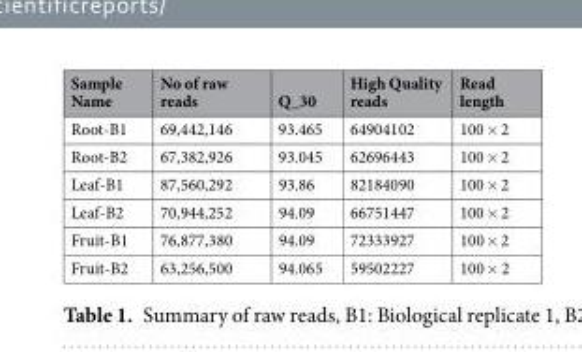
<table><thead><tr><td>Sample Name</td><td>No of raw reads</td><td>Q_30</td><td>High Quality reads</td><td>Read length</td></tr></thead><tbody><tr><td>Root-B1</td><td>69,442,146</td><td>93.465</td><td>64904102</td><td>100 × 2</td></tr><tr><td>Root-B2</td><td>67,382,926</td><td>93.045</td><td>62696443</td><td>100 × 2</td></tr><tr><td>Leaf-B1</td><td>87,560,292</td><td>93.86</td><td>82184090</td><td>100 × 2</td></tr><tr><td>Leaf-B2</td><td>70,944,252</td><td>94.09</td><td>66751447</td><td>100 × 2</td></tr><tr><td>Fruit-B1</td><td>76,877,380</td><td>94.09</td><td>72333927</td><td>100 × 2</td></tr><tr><td>Fruit-B2</td><td>63,256,500</td><td>94.065</td><td>59502227</td><td>100 × 2</td></tr></tbody></table>